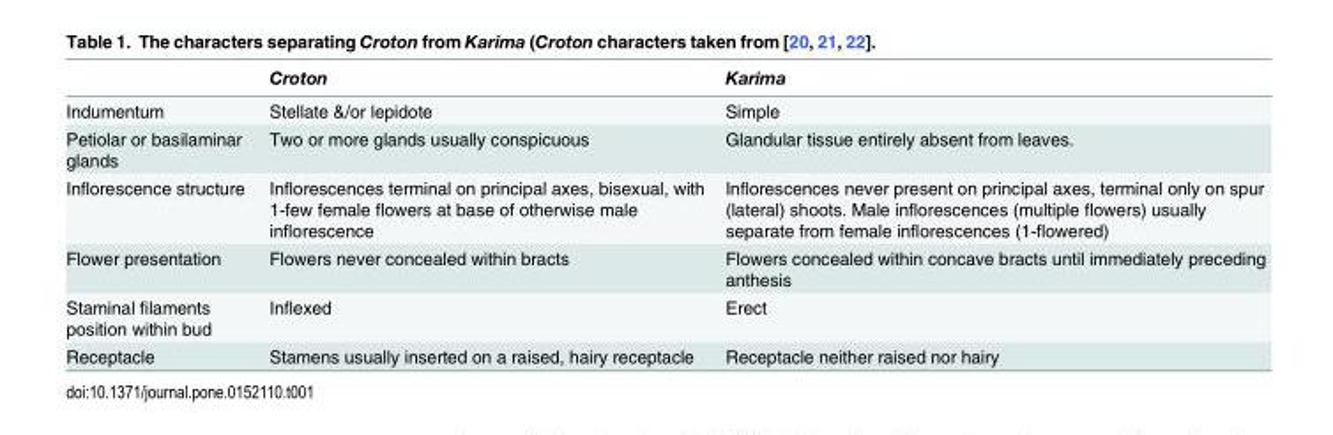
<table><thead><tr><td></td><td>Croton</td><td>Karima</td></tr></thead><tbody><tr><td>Indumentum</td><td>Stellate &amp;/or lepidote</td><td>Simple</td></tr><tr><td>Petiolar or basilaminar glands</td><td>Two or more glands usually conspicuous</td><td>Glandular tissue entirely absent from leaves.</td></tr><tr><td>Inflorescence structure</td><td>Inflorescences terminal on principal axes, bisexual, with 1-few female flowers at base of otherwise male inflorescence</td><td>Inflorescences never present on principal axes, terminal only on spur (lateral) shoots. Male inflorescences (multiple flowers) usually separate from female inflorescences (1-flowered)</td></tr><tr><td>Flower presentation</td><td>Flowers never concealed within bracts</td><td>Flowers concealed within concave bracts until immediately preceding anthesis</td></tr><tr><td>Staminal filaments position within bud</td><td>Inflexed</td><td>Erect</td></tr><tr><td>Receptacle</td><td>Stamens usually inserted on a raised, hairy receptacle</td><td>Receptacle neither raised nor hairy</td></tr></tbody></table>